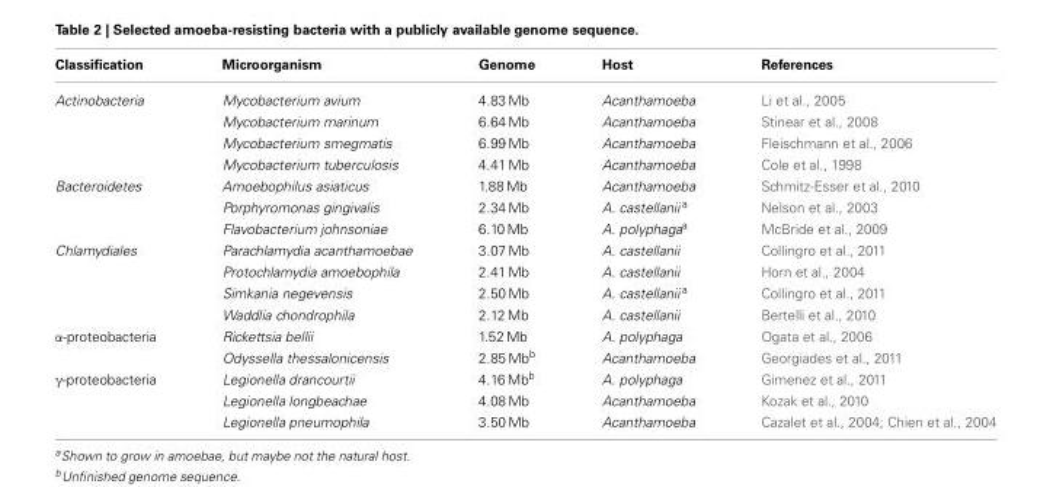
<table><thead><tr><td>Classification</td><td>Microorganism</td><td>Genome</td><td>Host</td><td>References</td></tr></thead><tbody><tr><td rowspan="4">Actinobacteria</td><td>Mycobacterium avium</td><td>4.83 Mb</td><td>Acanthamoeba</td><td>Li et al., 2005</td></tr><tr><td>Mycobacterium marinum</td><td>6.64 Mb</td><td>Acanthamoeba</td><td>Stinear et al., 2008</td></tr><tr><td>Mycobacterium smegmatis</td><td>6.99 Mb</td><td>Acanthamoeba</td><td>Fleischmann et al., 2006</td></tr><tr><td>Mycobacterium tuberculosis</td><td>4.41 Mb</td><td>Acanthamoeba</td><td>Cole et al., 1998</td></tr><tr><td rowspan="3">Bacteroidetes</td><td>Amoebophilus asiaticus</td><td>1.88 Mb</td><td>Acanthamoeba</td><td>Schmitz-Esser et al., 2010</td></tr><tr><td>Porphyromonas gingivalis</td><td>2.34 Mb</td><td>A. castellanii <sup>a</sup></td><td>Nelson et al., 2003</td></tr><tr><td>Flavobacterium johnsoniae</td><td>6.10 Mb</td><td>A. polyphaga<sup>a</sup></td><td>McBride et al., 2009</td></tr><tr><td rowspan="4">Chlamydiales</td><td>Parachlamydia acanthamoebae</td><td>3.07 Mb</td><td>A. castellanii</td><td>Collingro et al., 2011</td></tr><tr><td>Protochlamydia amoebophila</td><td>2.41 Mb</td><td>A. castellanii</td><td>Horn et al., 2004</td></tr><tr><td>Simkania negevensis</td><td>2.50 Mb</td><td>A. castellanii <sup>a</sup></td><td>Collingro et al., 2011</td></tr><tr><td>Waddlia chondrophila</td><td>2.12 Mb</td><td>A. castellanii</td><td>Bertelli et al., 2010</td></tr><tr><td rowspan="2">α-proteobacteria</td><td>Rickettsia bellii</td><td>1.52 Mb</td><td>A. polyphaga</td><td>Ogata et al., 2006</td></tr><tr><td>Odyssella thessalonicensis</td><td>2.85 Mb<sup>b</sup></td><td>Acanthamoeba</td><td>Georgiades et al., 2011</td></tr><tr><td rowspan="3">γ-proteobacteria</td><td>Legionella drancourtii</td><td>4.16 Mb<sup>b</sup></td><td>A. polyphaga</td><td>Gimenez et al., 2011</td></tr><tr><td>Legionella longbeachae</td><td>4.08 Mb</td><td>Acanthamoeba</td><td>Kozak et al., 2010</td></tr><tr><td>Legionella pneumophila</td><td>3.50 Mb</td><td>Acanthamoeba</td><td>Cazalet et al., 2004; Chien et al., 2004</td></tr></tbody></table>